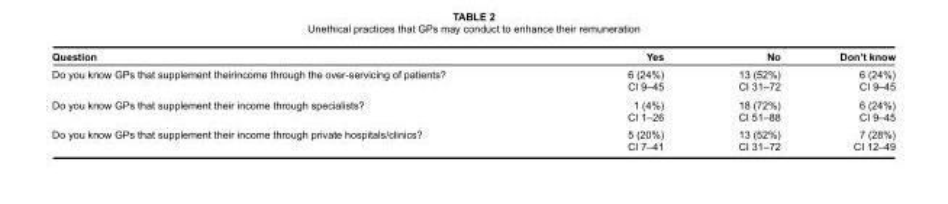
<table><thead><tr><td>Question</td><td>Yes</td><td>No</td><td>Don’t know</td></tr></thead><tbody><tr><td>Do you know GPs that supplement theirincome through the over-servicing of patients?</td><td>6 (24%) CI 9–45</td><td>13 (52%) CI 31–72</td><td>6 (24%) CI 9–45</td></tr><tr><td>Do you know GPs that supplement their income through specialists?</td><td>1 (4%) CI 1–26</td><td>18 (72%) CI 51–88</td><td>6 (24%) CI 9–45</td></tr><tr><td>Do you know GPs that supplement their income through private hospitals/clinics?</td><td>5 (20%) CI 7–41</td><td>13 (52%) CI 31–72</td><td>7 (28%) CI 12–49</td></tr></tbody></table>